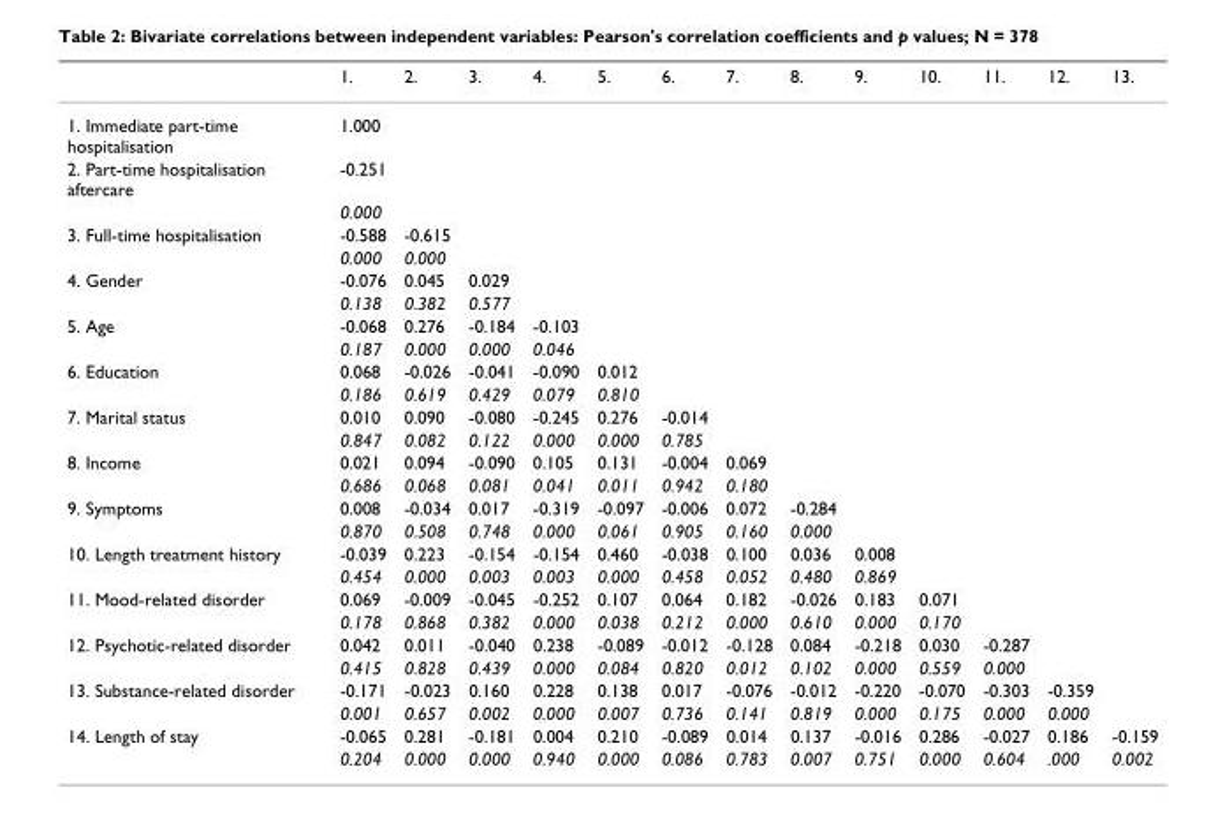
<table><thead><tr><td></td><td>1.</td><td>2.</td><td>3.</td><td>4.</td><td>5.</td><td>6.</td><td>7.</td><td>8.</td><td>9.</td><td>10.</td><td>11.</td><td>12.</td><td>13.</td></tr></thead><tbody><tr><td>1. Immediate part-time hospitalisation</td><td>1.000</td><td></td><td></td><td></td><td></td><td></td><td></td><td></td><td></td><td></td><td></td><td></td><td></td></tr><tr><td rowspan="2">2. Part-time hospitalisation aftercare</td><td>-0.251</td><td></td><td></td><td></td><td></td><td></td><td></td><td></td><td></td><td></td><td></td><td></td><td></td></tr><tr><td>0.000</td><td></td><td></td><td></td><td></td><td></td><td></td><td></td><td></td><td></td><td></td><td></td><td></td></tr><tr><td rowspan="2">3. Full-time hospitalisation</td><td>-0.588</td><td>-0.615</td><td></td><td></td><td></td><td></td><td></td><td></td><td></td><td></td><td></td><td></td><td></td></tr><tr><td>0.000</td><td>0.000</td><td></td><td></td><td></td><td></td><td></td><td></td><td></td><td></td><td></td><td></td><td></td></tr><tr><td rowspan="2">4. Gender</td><td>-0.076</td><td>0.045</td><td>0.029</td><td></td><td></td><td></td><td></td><td></td><td></td><td></td><td></td><td></td><td></td></tr><tr><td>0.138</td><td>0.382</td><td>0.577</td><td></td><td></td><td></td><td></td><td></td><td></td><td></td><td></td><td></td><td></td></tr><tr><td rowspan="2">5. Age</td><td>-0.068</td><td>0.276</td><td>-0.184</td><td>-0.103</td><td></td><td></td><td></td><td></td><td></td><td></td><td></td><td></td><td></td></tr><tr><td>0.187</td><td>0.000</td><td>0.000</td><td>0.046</td><td></td><td></td><td></td><td></td><td></td><td></td><td></td><td></td><td></td></tr><tr><td rowspan="2">6. Education</td><td>0.068</td><td>-0.026</td><td>-0.041</td><td>-0.090</td><td>0.012</td><td></td><td></td><td></td><td></td><td></td><td></td><td></td><td></td></tr><tr><td>0.186</td><td>0.619</td><td>0.429</td><td>0.079</td><td>0.810</td><td></td><td></td><td></td><td></td><td></td><td></td><td></td><td></td></tr><tr><td rowspan="2">7. Marital status</td><td>0.010</td><td>0.090</td><td>-0.080</td><td>-0.245</td><td>0.276</td><td>-0.014</td><td></td><td></td><td></td><td></td><td></td><td></td><td></td></tr><tr><td>0.847</td><td>0.082</td><td>0.122</td><td>0.000</td><td>0.000</td><td>0.785</td><td></td><td></td><td></td><td></td><td></td><td></td><td></td></tr><tr><td rowspan="2">8. Income</td><td>0.021</td><td>0.094</td><td>-0.090</td><td>0.105</td><td>0.131</td><td>-0.004</td><td>0.069</td><td></td><td></td><td></td><td></td><td></td><td></td></tr><tr><td>0.686</td><td>0.068</td><td>0.081</td><td>0.041</td><td>0.011</td><td>0.942</td><td>0.180</td><td></td><td></td><td></td><td></td><td></td><td></td></tr><tr><td rowspan="2">9. Symptoms</td><td>0.008</td><td>-0.034</td><td>0.017</td><td>-0.319</td><td>-0.097</td><td>-0.006</td><td>0.072</td><td>-0.284</td><td></td><td></td><td></td><td></td><td></td></tr><tr><td>0.870</td><td>0.508</td><td>0.748</td><td>0.000</td><td>0.061</td><td>0.905</td><td>0.160</td><td>0.000</td><td></td><td></td><td></td><td></td><td></td></tr><tr><td rowspan="2">10. Length treatment history</td><td>-0.039</td><td>0.223</td><td>-0.154</td><td>-0.154</td><td>0.460</td><td>-0.038</td><td>0.100</td><td>0.036</td><td>0.008</td><td></td><td></td><td></td><td></td></tr><tr><td>0.454</td><td>0.000</td><td>0.003</td><td>0.003</td><td>0.000</td><td>0.458</td><td>0.052</td><td>0.480</td><td>0.869</td><td></td><td></td><td></td><td></td></tr><tr><td rowspan="2">11. Mood-related disorder</td><td>0.069</td><td>-0.009</td><td>-0.045</td><td>-0.252</td><td>0.107</td><td>0.064</td><td>0.182</td><td>-0.026</td><td>0.183</td><td>0.071</td><td></td><td></td><td></td></tr><tr><td>0.178</td><td>0.868</td><td>0.382</td><td>0.000</td><td>0.038</td><td>0.212</td><td>0.000</td><td>0.610</td><td>0.000</td><td>0.170</td><td></td><td></td><td></td></tr><tr><td rowspan="2">12. Psychotic-related disorder</td><td>0.042</td><td>0.011</td><td>-0.040</td><td>0.238</td><td>-0.089</td><td>-0.012</td><td>-0.128</td><td>0.084</td><td>-0.218</td><td>0.030</td><td>-0.287</td><td></td><td></td></tr><tr><td>0.415</td><td>0.828</td><td>0.439</td><td>0.000</td><td>0.084</td><td>0.820</td><td>0.012</td><td>0.102</td><td>0.000</td><td>0.559</td><td>0.000</td><td></td><td></td></tr><tr><td rowspan="2">13. Substance-related disorder</td><td>-0.171</td><td>-0.023</td><td>0.160</td><td>0.228</td><td>0.138</td><td>0.017</td><td>-0.076</td><td>-0.012</td><td>-0.220</td><td>-0.070</td><td>-0.303</td><td>-0.359</td><td></td></tr><tr><td>0.001</td><td>0.657</td><td>0.002</td><td>0.000</td><td>0.007</td><td>0.736</td><td>0.141</td><td>0.819</td><td>0.000</td><td>0.175</td><td>0.000</td><td>0.000</td><td></td></tr><tr><td rowspan="2">14. Length of stay</td><td>-0.065</td><td>0.281</td><td>-0.181</td><td>0.004</td><td>0.210</td><td>-0.089</td><td>0.014</td><td>0.137</td><td>-0.016</td><td>0.286</td><td>-0.027</td><td>0.186</td><td>-0.159</td></tr><tr><td>0.204</td><td>0.000</td><td>0.000</td><td>0.940</td><td>0.000</td><td>0.086</td><td>0.783</td><td>0.007</td><td>0.751</td><td>0.000</td><td>0.604</td><td>.000</td><td>0.002</td></tr></tbody></table>